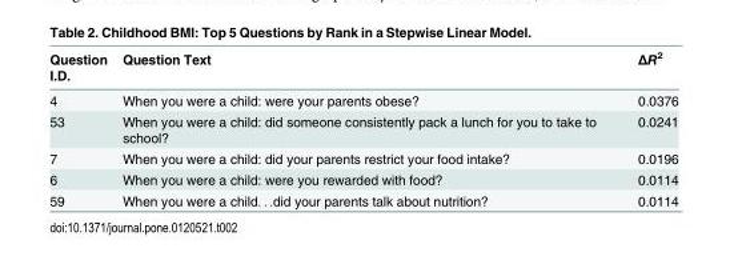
<table><thead><tr><td>Question I.D.</td><td>Question Text</td><td>ΔR<sup>2</sup></td></tr></thead><tbody><tr><td>4</td><td>When you were a child: were your parents obese?</td><td>0.0376</td></tr><tr><td>53</td><td>When you were a child: did someone consistently pack a lunch for you to take to school?</td><td>0.0241</td></tr><tr><td>7</td><td>When you were a child: did your parents restrict your food intake?</td><td>0.0196</td></tr><tr><td>6</td><td>When you were a child: were you rewarded with food?</td><td>0.0114</td></tr><tr><td>59</td><td>When you were a child. . .did your parents talk about nutrition?</td><td>0.0114</td></tr></tbody></table>